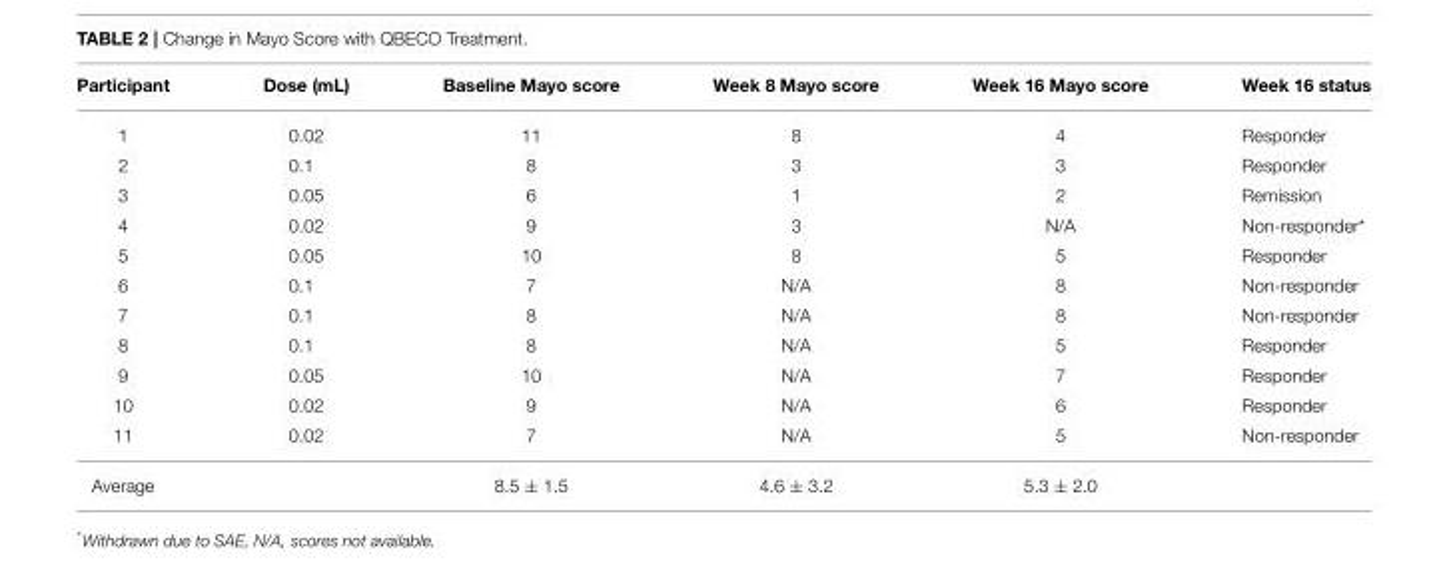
<table><thead><tr><td>Participant</td><td>Dose (mL)</td><td>Baseline Mayo score</td><td>Week 8 Mayo score</td><td>Week 16 Mayo score</td><td>Week 16 status</td></tr></thead><tbody><tr><td>1</td><td>0.02</td><td>11</td><td>8</td><td>4</td><td>Responder</td></tr><tr><td>2</td><td>0.1</td><td>8</td><td>3</td><td>3</td><td>Responder</td></tr><tr><td>3</td><td>0.05</td><td>6</td><td>1</td><td>2</td><td>Remission</td></tr><tr><td>4</td><td>0.02</td><td>9</td><td>3</td><td>N/A</td><td>Non-responder*</td></tr><tr><td>5</td><td>0.05</td><td>10</td><td>8</td><td>5</td><td>Responder</td></tr><tr><td>6</td><td>0.1</td><td>7</td><td>N/A</td><td>8</td><td>Non-responder</td></tr><tr><td>7</td><td>0.1</td><td>8</td><td>N/A</td><td>8</td><td>Non-responder</td></tr><tr><td>8</td><td>0.1</td><td>8</td><td>N/A</td><td>5</td><td>Responder</td></tr><tr><td>9</td><td>0.05</td><td>10</td><td>N/A</td><td>7</td><td>Responder</td></tr><tr><td>10</td><td>0.02</td><td>9</td><td>N/A</td><td>6</td><td>Responder</td></tr><tr><td>11</td><td>0.02</td><td>7</td><td>N/A</td><td>5</td><td>Non-responder</td></tr><tr><td>Average</td><td></td><td>8.5 ± 1.5</td><td>4.6 ± 3.2</td><td>5.3 ± 2.0</td><td></td></tr></tbody></table>